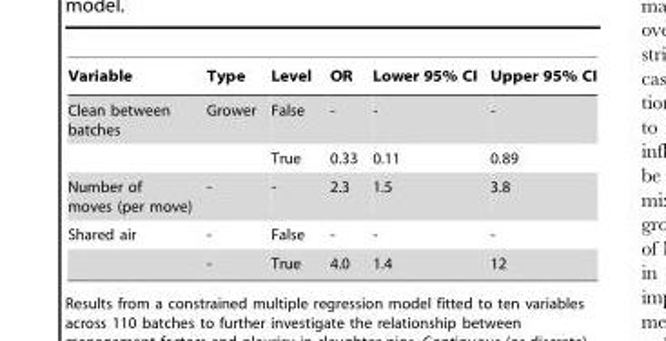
<table><thead><tr><td>Variable</td><td>Type</td><td>Level</td><td>OR</td><td>Lower 95% CI</td><td>Upper 95% CI</td></tr></thead><tbody><tr><td rowspan="2">Clean between batches</td><td>Grower</td><td>False</td><td>-</td><td>-</td><td>-</td></tr><tr><td></td><td>True</td><td>0.33</td><td>0.11</td><td>0.89</td></tr><tr><td>Number of moves (per move)</td><td>-</td><td>-</td><td>2.3</td><td>1.5</td><td>3.8</td></tr><tr><td rowspan="2">Shared air</td><td>-</td><td>False</td><td>-</td><td>-</td><td>-</td></tr><tr><td>-</td><td>True</td><td>4.0</td><td>1.4</td><td>12</td></tr></tbody></table>